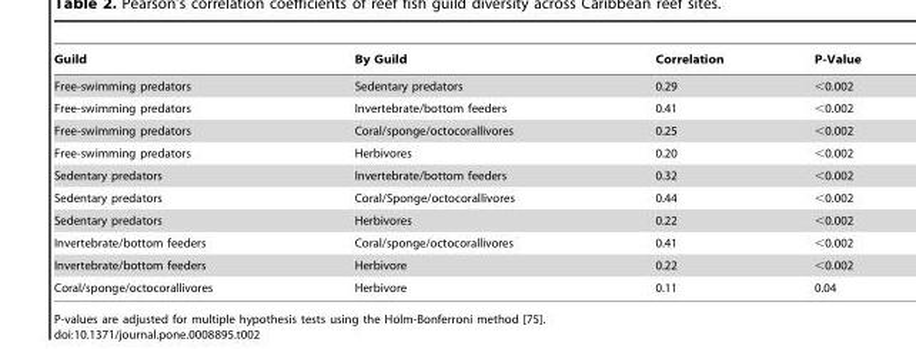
<table><thead><tr><td>Guild</td><td>By Guild</td><td>Correlation</td><td>P-Value</td></tr></thead><tbody><tr><td>Free-swimming predators</td><td>Sedentary predators</td><td>0.29</td><td>&lt;0.002</td></tr><tr><td>Free-swimming predators</td><td>Invertebrate/bottom feeders</td><td>0.41</td><td>&lt;0.002</td></tr><tr><td>Free-swimming predators</td><td>Coral/sponge/octocorallivores</td><td>0.25</td><td>&lt;0.002</td></tr><tr><td>Free-swimming predators</td><td>Herbivores</td><td>0.20</td><td>&lt;0.002</td></tr><tr><td>Sedentary predators</td><td>Invertebrate/bottom feeders</td><td>0.32</td><td>&lt;0.002</td></tr><tr><td>Sedentary predators</td><td>Coral/Sponge/octocorallivores</td><td>0.44</td><td>&lt;0.002</td></tr><tr><td>Sedentary predators</td><td>Herbivores</td><td>0.22</td><td>&lt;0.002</td></tr><tr><td>Invertebrate/bottom feeders</td><td>Coral/sponge/octocorallivores</td><td>0.41</td><td>&lt;0.002</td></tr><tr><td>Invertebrate/bottom feeders</td><td>Herbivore</td><td>0.22</td><td>&lt;0.002</td></tr><tr><td>Coral/sponge/octocorallivores</td><td>Herbivore</td><td>0.11</td><td>0.04</td></tr></tbody></table>